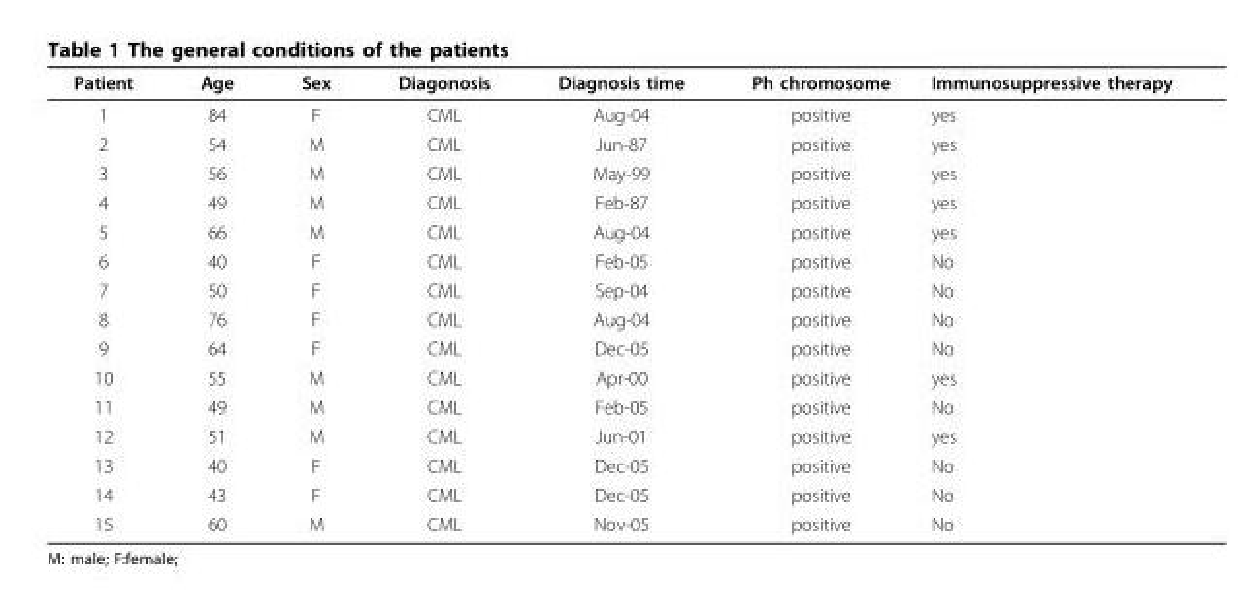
<table><thead><tr><td>Patient</td><td>Age</td><td>Sex</td><td>Diagonosis</td><td>Diagnosis time</td><td>Ph chromosome</td><td>Immunosuppressive therapy</td></tr></thead><tbody><tr><td>1</td><td>84</td><td>F</td><td>CML</td><td>Aug-04</td><td>positive</td><td>yes</td></tr><tr><td>2</td><td>54</td><td>M</td><td>CML</td><td>Jun-87</td><td>positive</td><td>yes</td></tr><tr><td>3</td><td>56</td><td>M</td><td>CML</td><td>May-99</td><td>positive</td><td>yes</td></tr><tr><td>4</td><td>49</td><td>M</td><td>CML</td><td>Feb-87</td><td>positive</td><td>yes</td></tr><tr><td>5</td><td>66</td><td>M</td><td>CML</td><td>Aug-04</td><td>positive</td><td>yes</td></tr><tr><td>6</td><td>40</td><td>F</td><td>CML</td><td>Feb-05</td><td>positive</td><td>No</td></tr><tr><td>7</td><td>50</td><td>F</td><td>CML</td><td>Sep-04</td><td>positive</td><td>No</td></tr><tr><td>8</td><td>76</td><td>F</td><td>CML</td><td>Aug-04</td><td>positive</td><td>No</td></tr><tr><td>9</td><td>64</td><td>F</td><td>CML</td><td>Dec-05</td><td>positive</td><td>No</td></tr><tr><td>10</td><td>55</td><td>M</td><td>CML</td><td>Apr-00</td><td>positive</td><td>yes</td></tr><tr><td>11</td><td>49</td><td>M</td><td>CML</td><td>Feb-05</td><td>positive</td><td>No</td></tr><tr><td>12</td><td>51</td><td>M</td><td>CML</td><td>Jun-01</td><td>positive</td><td>yes</td></tr><tr><td>13</td><td>40</td><td>F</td><td>CML</td><td>Dec-05</td><td>positive</td><td>No</td></tr><tr><td>14</td><td>43</td><td>F</td><td>CML</td><td>Dec-05</td><td>positive</td><td>No</td></tr><tr><td>15</td><td>60</td><td>M</td><td>CML</td><td>Nov-05</td><td>positive</td><td>No</td></tr></tbody></table>